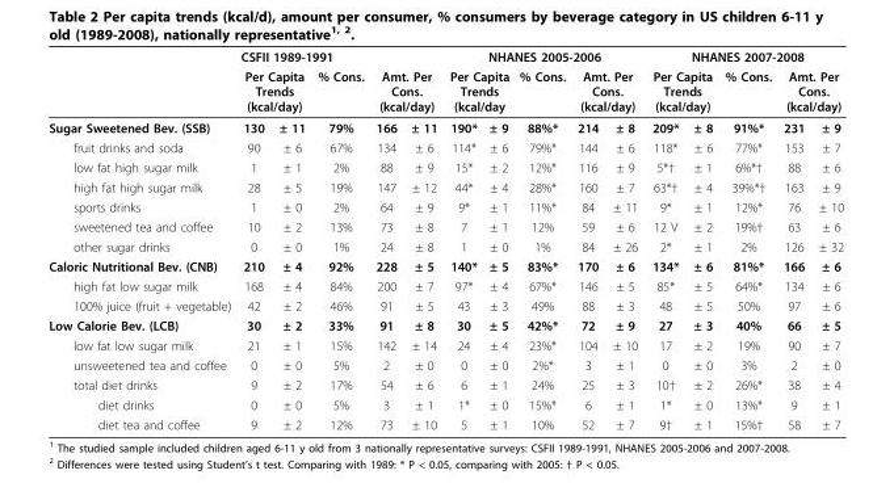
<table><thead><tr><td rowspan="3">Sugar Sweetened Bev. (SSB)</td><td colspan="5">CSFII 1989-1991</td><td colspan="5">NHANES 2005-2006</td><td colspan="5">NHANES 2007-2008</td></tr><tr><td colspan="2">Per Capita Trends (kcal/day)</td><td rowspan="2">% Cons. 79%</td><td colspan="2">Amt. Per Cons. (kcal/day)</td><td colspan="2">Per Capita Trends (kcal/day</td><td rowspan="2">% Cons. 88%*</td><td colspan="2">Amt. Per Cons. (kcal/day)</td><td colspan="2">Per Capita Trends (kcal/day)</td><td rowspan="2">% Cons. 91%*</td><td colspan="2">Amt. Per Cons. (kcal/day)</td></tr><tr><td>130</td><td>± 11</td><td>166</td><td>± 11</td><td>190*</td><td>± 9</td><td>214</td><td>± 8</td><td>209*</td><td>± 8</td><td>231</td><td>± 9</td></tr></thead><tbody><tr><td>fruit drinks and soda</td><td>90</td><td>± 6</td><td>67%</td><td>134</td><td>± 6</td><td>114*</td><td>± 6</td><td>79%*</td><td>144</td><td>± 6</td><td>118*</td><td>± 6</td><td>77%*</td><td>153</td><td>± 7</td></tr><tr><td>low fat high sugar milk</td><td>1</td><td>± 1</td><td>2%</td><td>88</td><td>± 9</td><td>15*</td><td>± 2</td><td>12%*</td><td>116</td><td>± 9</td><td>5*†</td><td>± 1</td><td>6%*†</td><td>88</td><td>± 6</td></tr><tr><td>high fat high sugar milk</td><td>28</td><td>± 5</td><td>19%</td><td>147</td><td>± 12</td><td>44*</td><td>± 4</td><td>28%*</td><td>160</td><td>± 7</td><td>63*†</td><td>± 4</td><td>39%*†</td><td>163</td><td>± 9</td></tr><tr><td>sports drinks</td><td>1</td><td>± 0</td><td>2%</td><td>64</td><td>± 9</td><td>9*</td><td>± 1</td><td>11%*</td><td>84</td><td>± 11</td><td>9*</td><td>± 1</td><td>12%*</td><td>76</td><td>± 10</td></tr><tr><td>sweetened tea and coffee</td><td>10</td><td>± 2</td><td>13%</td><td>73</td><td>± 8</td><td>7</td><td>± 1</td><td>12%</td><td>59</td><td>± 6</td><td>12 V</td><td>± 2</td><td>19%†</td><td>63</td><td>± 6</td></tr><tr><td>other sugar drinks</td><td>0</td><td>± 0</td><td>1%</td><td>24</td><td>± 8</td><td>1</td><td>± 0</td><td>1%</td><td>84</td><td>± 26</td><td>2*</td><td>± 1</td><td>2%</td><td>126</td><td>± 32</td></tr><tr><td>Caloric Nutritional Bev. (CNB)</td><td>210</td><td>± 4</td><td>92%</td><td>228</td><td>± 5</td><td>140*</td><td>± 5</td><td>83%*</td><td>170</td><td>± 6</td><td>134*</td><td>± 6</td><td>81%*</td><td>166</td><td>± 6</td></tr><tr><td>high fat low sugar milk</td><td>168</td><td>± 4</td><td>84%</td><td>200</td><td>± 7</td><td>97*</td><td>± 4</td><td>67%*</td><td>146</td><td>± 5</td><td>85*</td><td>± 5</td><td>64%*</td><td>134</td><td>± 6</td></tr><tr><td>100% juice (fruit + vegetable)</td><td>42</td><td>± 2</td><td>46%</td><td>91</td><td>± 5</td><td>43</td><td>± 3</td><td>49%</td><td>88</td><td>± 3</td><td>48</td><td>± 5</td><td>50%</td><td>97</td><td>± 6</td></tr><tr><td>Low Calorie Bev. (LCB)</td><td>30</td><td>± 2</td><td>33%</td><td>91</td><td>± 8</td><td>30</td><td>± 5</td><td>42%*</td><td>72</td><td>± 9</td><td>27</td><td>± 3</td><td>40%</td><td>66</td><td>± 5</td></tr><tr><td>low fat low sugar milk</td><td>21</td><td>± 1</td><td>15%</td><td>142</td><td>± 14</td><td>24</td><td>± 4</td><td>23%*</td><td>104</td><td>± 10</td><td>17</td><td>± 2</td><td>19%</td><td>90</td><td>± 7</td></tr><tr><td>unsweetened tea and coffee</td><td>0</td><td>± 0</td><td>5%</td><td>2</td><td>± 0</td><td>0</td><td>± 0</td><td>2%*</td><td>3</td><td>± 1</td><td>0</td><td>± 0</td><td>3%</td><td>2</td><td>± 0</td></tr><tr><td>total diet drinks</td><td>9</td><td>± 2</td><td>17%</td><td>54</td><td>± 6</td><td>6</td><td>± 1</td><td>24%</td><td>25</td><td>± 3</td><td>10†</td><td>± 2</td><td>26%*</td><td>38</td><td>± 4</td></tr><tr><td>diet drinks</td><td>0</td><td>± 0</td><td>5%</td><td>3</td><td>± 1</td><td>1*</td><td>± 0</td><td>15%*</td><td>6</td><td>± 1</td><td>1*</td><td>± 0</td><td>13%*</td><td>9</td><td>± 1</td></tr><tr><td>diet tea and coffee</td><td>9</td><td>± 2</td><td>12%</td><td>73</td><td>± 10</td><td>5</td><td>± 1</td><td>10%</td><td>52</td><td>± 7</td><td>9†</td><td>± 1</td><td>15%†</td><td>58</td><td>± 7</td></tr></tbody></table>